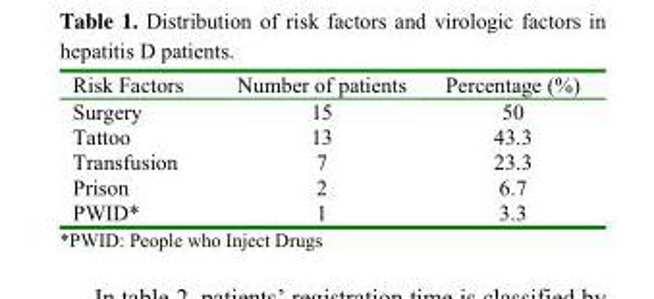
<table><thead><tr><td>Percentage (%)</td><td>Number of patients</td><td>Risk Factors</td></tr></thead><tbody><tr><td>50</td><td>15</td><td>Surgery</td></tr><tr><td>43.3</td><td>13</td><td>Tattoo</td></tr><tr><td>23.3</td><td>7</td><td>Transfusion</td></tr><tr><td>6.7</td><td>2</td><td>Prison</td></tr><tr><td>3.3</td><td>1</td><td>PWID*</td></tr></tbody></table>